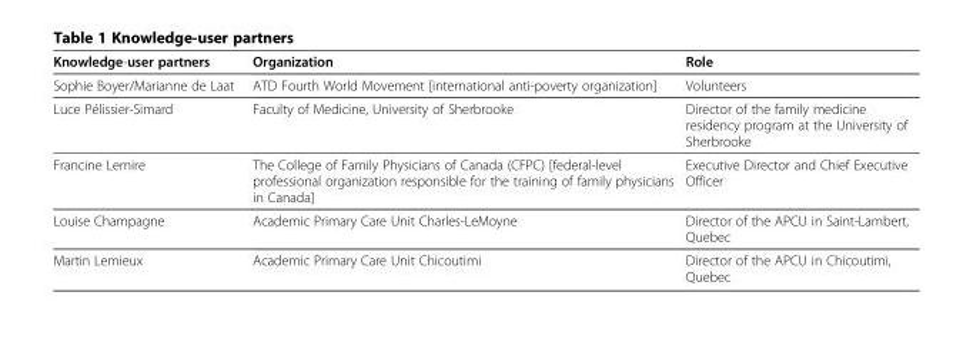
<table><thead><tr><td>Knowledge-user partners</td><td>Organization</td><td>Role</td></tr></thead><tbody><tr><td>Sophie Boyer/Marianne de Laat</td><td>ATD Fourth World Movement [international anti-poverty organization]</td><td>Volunteers</td></tr><tr><td>Luce Pélissier-Simard</td><td>Faculty of Medicine, University of Sherbrooke</td><td>Director of the family medicine residency program at the University of Sherbrooke</td></tr><tr><td>Francine Lemire</td><td>The College of Family Physicians of Canada (CFPC) [federal-level professional organization responsible for the training of family physicians in Canada]</td><td>Executive Director and Chief Executive Officer</td></tr><tr><td>Louise Champagne</td><td>Academic Primary Care Unit Charles-LeMoyne</td><td>Director of the APCU in Saint-Lambert, Quebec</td></tr><tr><td>Martin Lemieux</td><td>Academic Primary Care Unit Chicoutimi</td><td>Director of the APCU in Chicoutimi, Quebec</td></tr></tbody></table>